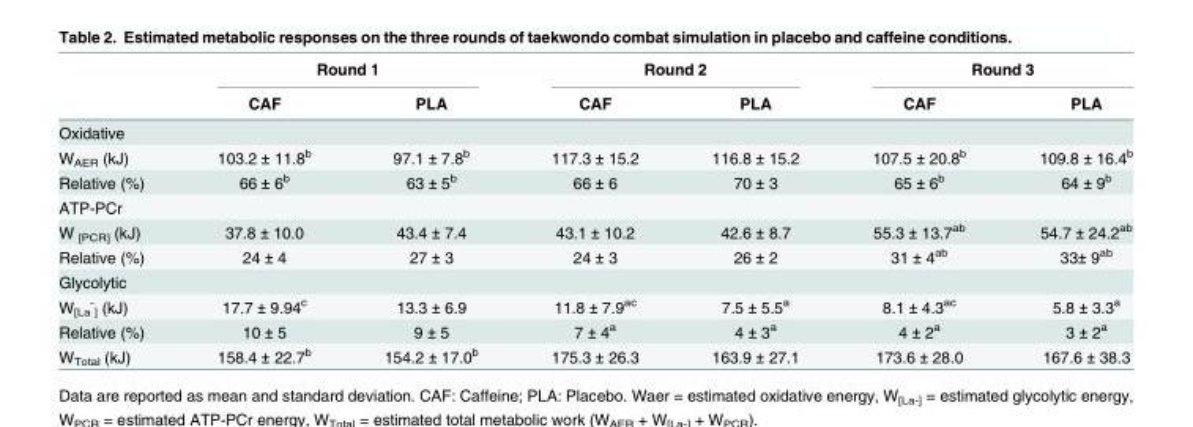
<table><thead><tr><td rowspan="2"></td><td colspan="2">Round 1</td><td colspan="2">Round 2</td><td colspan="2">Round 3</td></tr><tr><td>CAF</td><td>PLA</td><td>CAF</td><td>PLA</td><td>CAF</td><td>PLA</td></tr></thead><tbody><tr><td colspan="7">Oxidative</td></tr><tr><td>W<sub>AER</sub> (kJ)</td><td>103.2 ± 11.8<sup>b</sup></td><td>97.1 ± 7.8<sup>b</sup></td><td>117.3 ± 15.2</td><td>116.8 ± 15.2</td><td>107.5 ± 20.8<sup>b</sup></td><td>109.8 ± 16.4<sup>b</sup></td></tr><tr><td>Relative (%)</td><td>66 ± 6<sup>b</sup></td><td>63 ± 5<sup>b</sup></td><td>66 ± 6</td><td>70 ± 3</td><td>65 ± 6<sup>b</sup></td><td>64 ± 9<sup>b</sup></td></tr><tr><td colspan="7">ATP-PCr</td></tr><tr><td>W <sub>[PCR]</sub> (kJ)</td><td>37.8 ± 10.0</td><td>43.4 ± 7.4</td><td>43.1 ± 10.2</td><td>42.6 ± 8.7</td><td>55.3 ± 13.7<sup>ab</sup></td><td>54.7 ± 24.2<sup>ab</sup></td></tr><tr><td>Relative (%)</td><td>24 ± 4</td><td>27 ± 3</td><td>24 ± 3</td><td>26 ± 2</td><td>31 ± 4<sup>ab</sup></td><td>33± 9<sup>ab</sup></td></tr><tr><td colspan="7">Glycolytic</td></tr><tr><td>W<sub>[La</sub> <sup>-</sup> <sub>]</sub> (kJ)</td><td>17.7 ± 9.94<sup>c</sup></td><td>13.3 ± 6.9</td><td>11.8 ± 7.9<sup>ac</sup></td><td>7.5 ± 5.5<sup>a</sup></td><td>8.1 ± 4.3<sup>ac</sup></td><td>5.8 ± 3.3<sup>a</sup></td></tr><tr><td>Relative (%)</td><td>10 ± 5</td><td>9 ± 5</td><td>7 ± 4<sup>a</sup></td><td>4 ± 3<sup>a</sup></td><td>4 ± 2<sup>a</sup></td><td>3 ± 2<sup>a</sup></td></tr><tr><td>W<sub>Total</sub> (kJ)</td><td>158.4 ± 22.7<sup>b</sup></td><td>154.2 ± 17.0<sup>b</sup></td><td>175.3 ± 26.3</td><td>163.9 ± 27.1</td><td>173.6 ± 28.0</td><td>167.6 ± 38.3</td></tr></tbody></table>